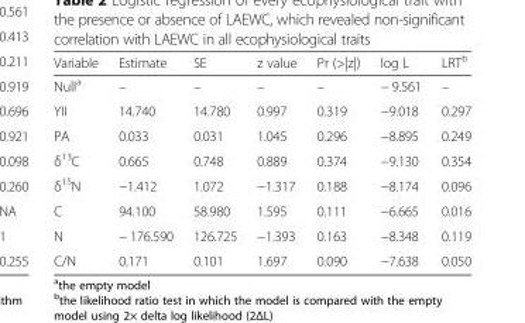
<table><thead><tr><td>Variable</td><td>Estimate</td><td>SE</td><td>z value</td><td>Pr (&gt;|z|)</td><td>log L</td><td>LRT<sup>b</sup></td></tr></thead><tbody><tr><td>Null<sup>a</sup></td><td>–</td><td>–</td><td>–</td><td>–</td><td>− 9.561</td><td>–</td></tr><tr><td>YII</td><td>14.740</td><td>14.780</td><td>0.997</td><td>0.319</td><td>−9.018</td><td>0.297</td></tr><tr><td>PA</td><td>0.033</td><td>0.031</td><td>1.045</td><td>0.296</td><td>−8.895</td><td>0.249</td></tr><tr><td>δ<sup>13</sup>C</td><td>0.665</td><td>0.748</td><td>0.889</td><td>0.374</td><td>−9.130</td><td>0.354</td></tr><tr><td>δ<sup>15</sup>N</td><td>−1.412</td><td>1.072</td><td>−1.317</td><td>0.188</td><td>−8.174</td><td>0.096</td></tr><tr><td>C</td><td>94.100</td><td>58.980</td><td>1.595</td><td>0.111</td><td>−6.665</td><td>0.016</td></tr><tr><td>N</td><td>− 176.590</td><td>126.725</td><td>−1.393</td><td>0.163</td><td>−8.348</td><td>0.119</td></tr><tr><td>C/N</td><td>0.171</td><td>0.101</td><td>1.697</td><td>0.090</td><td>−7.638</td><td>0.050</td></tr></tbody></table>